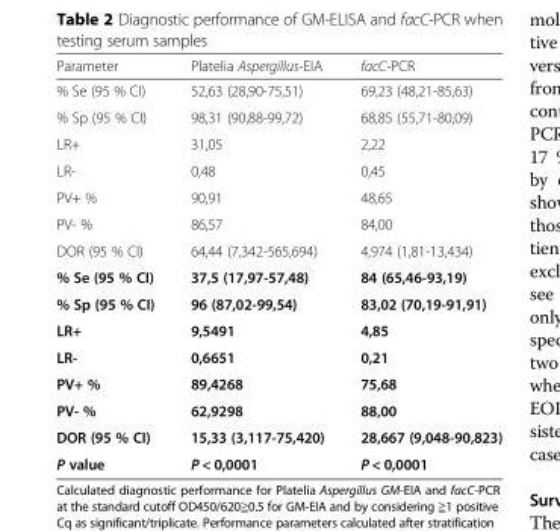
<table><thead><tr><td>Parameter</td><td>Platelia Aspergillus-EIA</td><td>facC-PCR</td></tr></thead><tbody><tr><td>% Se (95 % CI)</td><td>52,63 (28,90-75,51)</td><td>69,23 (48,21-85,63)</td></tr><tr><td>% Sp (95 % CI)</td><td>98,31 (90,88-99,72)</td><td>68,85 (55,71-80,09)</td></tr><tr><td>LR+</td><td>31,05</td><td>2,22</td></tr><tr><td>LR-</td><td>0,48</td><td>0,45</td></tr><tr><td>PV+ %</td><td>90,91</td><td>48,65</td></tr><tr><td>PV- %</td><td>86,57</td><td>84,00</td></tr><tr><td>DOR (95 % CI)</td><td>64,44 (7,342-565,694)</td><td>4,974 (1,81-13,434)</td></tr><tr><td>% Se (95 % CI)</td><td>37,5 (17,97-57,48)</td><td>84 (65,46-93,19)</td></tr><tr><td>% Sp (95 % CI)</td><td>96 (87,02-99,54)</td><td>83,02 (70,19-91,91)</td></tr><tr><td>LR+</td><td>9,5491</td><td>4,85</td></tr><tr><td>LR-</td><td>0,6651</td><td>0,21</td></tr><tr><td>PV+ %</td><td>89,4268</td><td>75,68</td></tr><tr><td>PV- %</td><td>62,9298</td><td>88,00</td></tr><tr><td>DOR (95 % CI)</td><td>15,33 (3,117-75,420)</td><td>28,667 (9,048-90,823)</td></tr><tr><td>P value</td><td>P &lt; 0,0001</td><td>P &lt; 0,0001</td></tr></tbody></table>